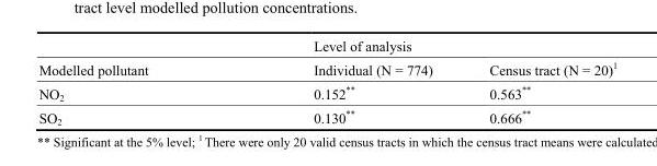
<table><thead><tr><td rowspan="2">Modelled pollutant</td><td rowspan="2">Level of analysis Individual (N = 774)</td><td rowspan="2">Census tract (N = 20)<sup>1</sup></td></tr><tr></tr></thead><tbody><tr><td>NO<sub>2</sub></td><td>0.152**</td><td>0.563**</td></tr><tr><td>SO<sub>2</sub></td><td>0.130**</td><td>0.666**</td></tr></tbody></table>